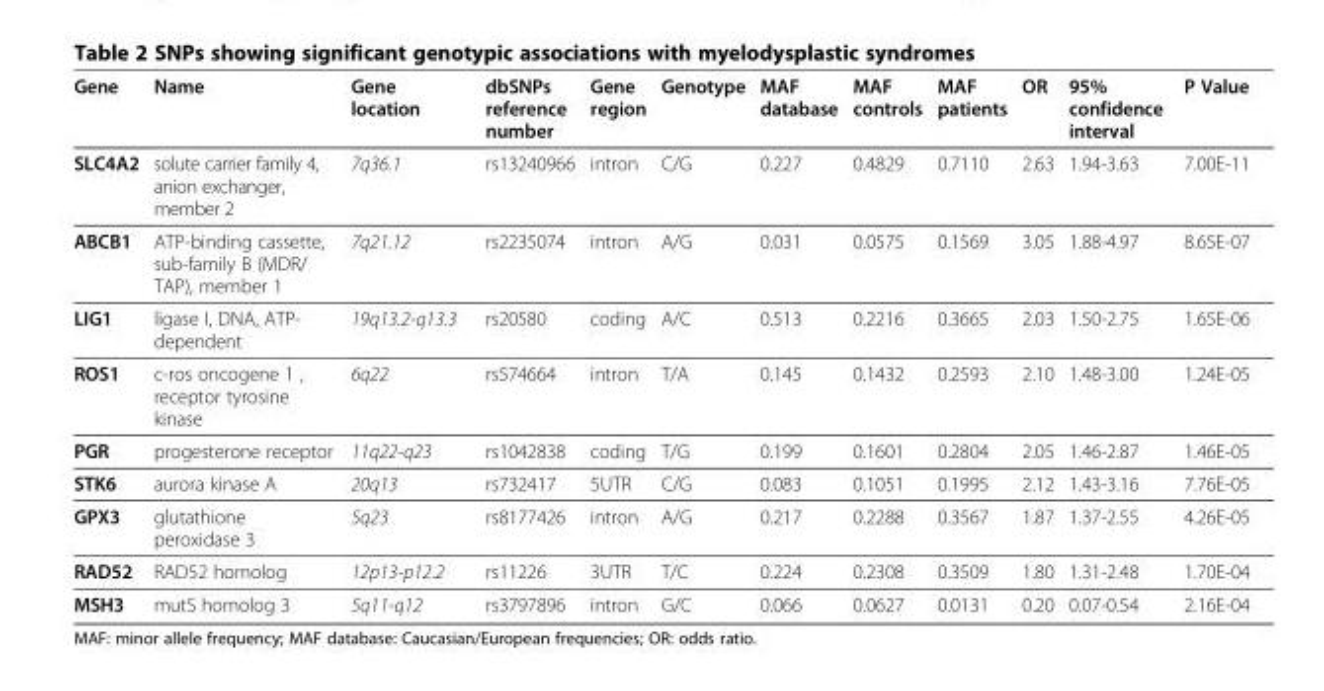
<table><thead><tr><td>Gene</td><td>Name</td><td>Gene location</td><td>dbSNPs reference number</td><td>Gene region</td><td>Genotype</td><td>MAF database</td><td>MAF controls</td><td>MAF patients</td><td>OR</td><td>95% confidence interval</td><td>P Value</td></tr></thead><tbody><tr><td>SLC4A2</td><td>solute carrier family 4, anion exchanger, member 2</td><td>7q36.1</td><td>rs13240966</td><td>intron</td><td>C/G</td><td>0.227</td><td>0.4829</td><td>0.7110</td><td>2.63</td><td>1.94-3.63</td><td>7.00E-11</td></tr><tr><td>ABCB1</td><td>ATP-binding cassette, sub-family B (MDR/ TAP), member 1</td><td>7q21.12</td><td>rs2235074</td><td>intron</td><td>A/G</td><td>0.031</td><td>0.0575</td><td>0.1569</td><td>3.05</td><td>1.88-4.97</td><td>8.65E-07</td></tr><tr><td>LIG1</td><td>ligase I, DNA, ATP- dependent</td><td>19q13.2-q13.3</td><td>rs20580</td><td>coding</td><td>A/C</td><td>0.513</td><td>0.2216</td><td>0.3665</td><td>2.03</td><td>1.50-2.75</td><td>1.65E-06</td></tr><tr><td>ROS1</td><td>c-ros oncogene 1 , receptor tyrosine kinase</td><td>6q22</td><td>rs574664</td><td>intron</td><td>T/A</td><td>0.145</td><td>0.1432</td><td>0.2593</td><td>2.10</td><td>1.48-3.00</td><td>1.24E-05</td></tr><tr><td>PGR</td><td>progesterone receptor</td><td>11q22-q23</td><td>rs1042838</td><td>coding</td><td>T/G</td><td>0.199</td><td>0.1601</td><td>0.2804</td><td>2.05</td><td>1.46-2.87</td><td>1.46E-05</td></tr><tr><td>STK6</td><td>aurora kinase A</td><td>20q13</td><td>rs732417</td><td>5UTR</td><td>C/G</td><td>0.083</td><td>0.1051</td><td>0.1995</td><td>2.12</td><td>1.43-3.16</td><td>7.76E-05</td></tr><tr><td>GPX3</td><td>glutathione peroxidase 3</td><td>5q23</td><td>rs8177426</td><td>intron</td><td>A/G</td><td>0.217</td><td>0.2288</td><td>0.3567</td><td>1.87</td><td>1.37-2.55</td><td>4.26E-05</td></tr><tr><td>RAD52</td><td>RAD52 homolog</td><td>12p13-p12.2</td><td>rs11226</td><td>3UTR</td><td>T/C</td><td>0.224</td><td>0.2308</td><td>0.3509</td><td>1.80</td><td>1.31-2.48</td><td>1.70E-04</td></tr><tr><td>MSH3</td><td>mutS homolog 3</td><td>5q11-q12</td><td>rs3797896</td><td>intron</td><td>G/C</td><td>0.066</td><td>0.0627</td><td>0.0131</td><td>0.20</td><td>0.07-0.54</td><td>2.16E-04</td></tr></tbody></table>